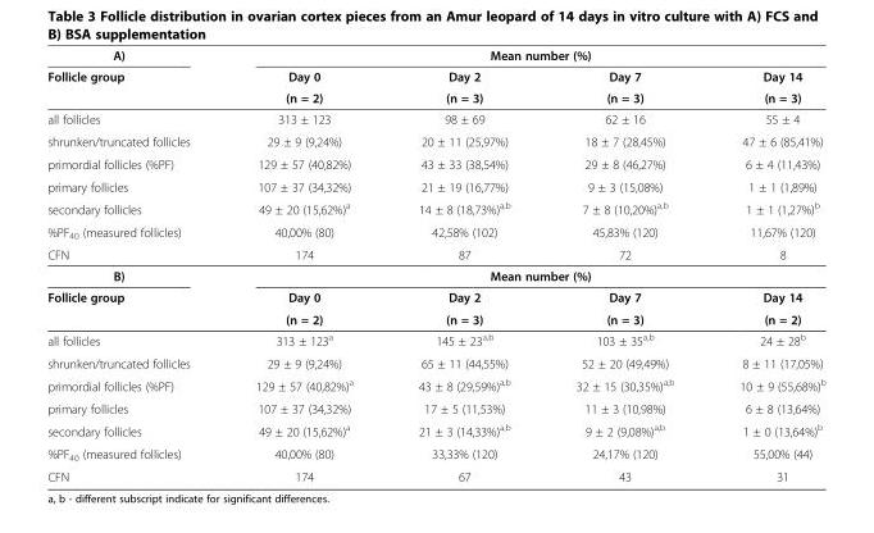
<table><thead><tr><td rowspan="3">A) Follicle group</td><td colspan="4">Mean number (%)</td></tr><tr><td rowspan="2">Day 0 (n = 2)</td><td rowspan="2">Day 2 (n = 3)</td><td rowspan="2">Day 7 (n = 3)</td><td rowspan="2">Day 14 (n = 3)</td></tr><tr></tr></thead><tbody><tr><td>all follicles</td><td>313 ± 123</td><td>98 ± 69</td><td>62 ± 16</td><td>55 ± 4</td></tr><tr><td>shrunken/truncated follicles</td><td>29 ± 9 (9,24%)</td><td>20 ± 11 (25,97%)</td><td>18 ± 7 (28,45%)</td><td>47 ± 6 (85,41%)</td></tr><tr><td>primordial follicles (%PF)</td><td>129 ± 57 (40,82%)</td><td>43 ± 33 (38,54%)</td><td>29 ± 8 (46,27%)</td><td>6 ± 4 (11,43%)</td></tr><tr><td>primary follicles</td><td>107 ± 37 (34,32%)</td><td>21 ± 19 (16,77%)</td><td>9 ± 3 (15,08%)</td><td>1 ± 1 (1,89%)</td></tr><tr><td>secondary follicles</td><td>49 ± 20 (15,62%)<sup>a</sup></td><td>14 ± 8 (18,73%)<sup>a,b</sup></td><td>7 ± 8 (10,20%)<sup>a,b</sup></td><td>1 ± 1 (1,27%)<sup>b</sup></td></tr><tr><td>%PF<sub>40</sub> (measured follicles)</td><td>40,00% (80)</td><td>42,58% (102)</td><td>45,83% (120)</td><td>11,67% (120)</td></tr><tr><td>CFN</td><td>174</td><td>87</td><td>72</td><td>8</td></tr><tr><td>B)</td><td colspan="4">Mean number (%)</td></tr><tr><td rowspan="2">Follicle group</td><td>Day 0</td><td>Day 2</td><td>Day 7</td><td>Day 14</td></tr><tr><td>(n = 2)</td><td>(n = 3)</td><td>(n = 3)</td><td>(n = 2)</td></tr><tr><td>all follicles</td><td>313 ± 123<sup>a</sup></td><td>145 ± 23<sup>a,b</sup></td><td>103 ± 35<sup>a,b</sup></td><td>24 ± 28<sup>b</sup></td></tr><tr><td>shrunken/truncated follicles</td><td>29 ± 9 (9,24%)</td><td>65 ± 11 (44,55%)</td><td>52 ± 20 (49,49%)</td><td>8 ± 11 (17,05%)</td></tr><tr><td>primordial follicles (%PF)</td><td>129 ± 57 (40,82%)<sup>a</sup></td><td>43 ± 8 (29,59%)<sup>a,b</sup></td><td>32 ± 15 (30,35%)<sup>a,b</sup></td><td>10 ± 9 (55,68%)<sup>b</sup></td></tr><tr><td>primary follicles</td><td>107 ± 37 (34,32%)</td><td>17 ± 5 (11,53%)</td><td>11 ± 3 (10,98%)</td><td>6 ± 8 (13,64%)</td></tr><tr><td>secondary follicles</td><td>49 ± 20 (15,62%)<sup>a</sup></td><td>21 ± 3 (14,33%)<sup>a,b</sup></td><td>9 ± 2 (9,08%)<sup>a,b</sup></td><td>1 ± 0 (13,64%)<sup>b</sup></td></tr><tr><td>%PF<sub>40</sub> (measured follicles)</td><td>40,00% (80)</td><td>33,33% (120)</td><td>24,17% (120)</td><td>55,00% (44)</td></tr><tr><td>CFN</td><td>174</td><td>67</td><td>43</td><td>31</td></tr></tbody></table>